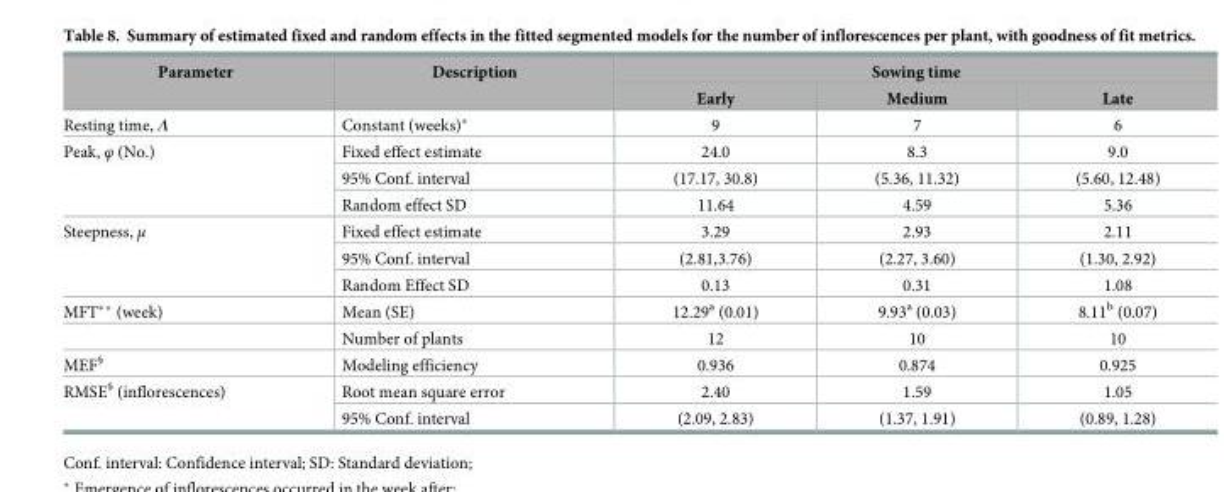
<table><thead><tr><td rowspan="2">Parameter</td><td rowspan="2">Description</td><td colspan="3">Sowing time</td></tr><tr><td>Early</td><td>Medium</td><td>Late</td></tr></thead><tbody><tr><td>Resting time, Λ</td><td>Constant (weeks)*</td><td>9</td><td>7</td><td>6</td></tr><tr><td rowspan="3">Peak, φ (No.)</td><td>Fixed effect estimate</td><td>24.0</td><td>8.3</td><td>9.0</td></tr><tr><td>95% Conf. interval</td><td>(17.17, 30.8)</td><td>(5.36, 11.32)</td><td>(5.60, 12.48)</td></tr><tr><td>Random effect SD</td><td>11.64</td><td>4.59</td><td>5.36</td></tr><tr><td rowspan="3">Steepness, μ</td><td>Fixed effect estimate</td><td>3.29</td><td>2.93</td><td>2.11</td></tr><tr><td>95% Conf. interval</td><td>(2.81,3.76)</td><td>(2.27, 3.60)</td><td>(1.30, 2.92)</td></tr><tr><td>Random Effect SD</td><td>0.13</td><td>0.31</td><td>1.08</td></tr><tr><td rowspan="2">MFT** (week)</td><td>Mean (SE)</td><td>12.29<sup>a</sup> (0.01)</td><td>9.93<sup>a</sup> (0.03)</td><td>8.11<sup>b</sup> (0.07)</td></tr><tr><td>Number of plants</td><td>12</td><td>10</td><td>10</td></tr><tr><td>MEF<sup>§</sup></td><td>Modeling efficiency</td><td>0.936</td><td>0.874</td><td>0.925</td></tr><tr><td rowspan="2">RMSE<sup>§</sup> (inflorescences)</td><td>Root mean square error</td><td>2.40</td><td>1.59</td><td>1.05</td></tr><tr><td>95% Conf. interval</td><td>(2.09, 2.83)</td><td>(1.37, 1.91)</td><td>(0.89, 1.28)</td></tr></tbody></table>